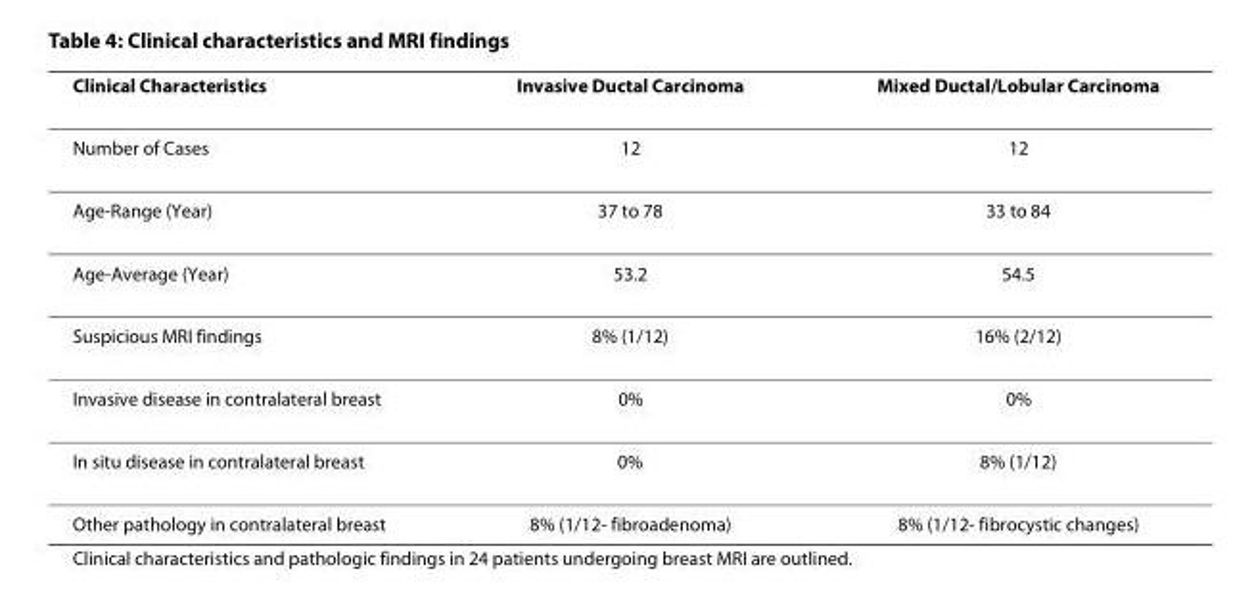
<table><thead><tr><td>Clinical Characteristics</td><td>Invasive Ductal Carcinoma</td><td>Mixed Ductal/Lobular Carcinoma</td></tr></thead><tbody><tr><td>Number of Cases</td><td>12</td><td>12</td></tr><tr><td>Age-Range (Year)</td><td>37 to 78</td><td>33 to 84</td></tr><tr><td>Age-Average (Year)</td><td>53.2</td><td>54.5</td></tr><tr><td>Suspicious MRI findings</td><td>8% (1/12)</td><td>16% (2/12)</td></tr><tr><td>Invasive disease in contralateral breast</td><td>0%</td><td>0%</td></tr><tr><td>In situ disease in contralateral breast</td><td>0%</td><td>8% (1/12)</td></tr><tr><td>Other pathology in contralateral breast</td><td>8% (1/12- fibroadenoma)</td><td>8% (1/12- fibrocystic changes)</td></tr></tbody></table>